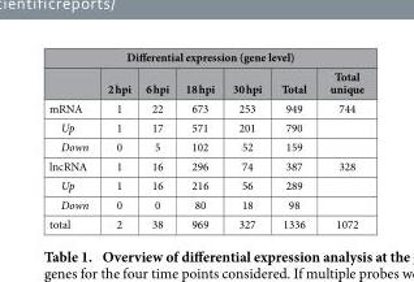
<table><thead><tr><td colspan="7">Differential expression (gene level)</td></tr><tr><td></td><td>2 hpi</td><td>6 hpi</td><td>18 hpi</td><td>30 hpi</td><td>Total</td><td>Total unique</td></tr></thead><tbody><tr><td>mRNA</td><td>1</td><td>22</td><td>673</td><td>253</td><td>949</td><td>744</td></tr><tr><td>Up</td><td>1</td><td>17</td><td>571</td><td>201</td><td>790</td><td></td></tr><tr><td>Down</td><td>0</td><td>5</td><td>102</td><td>52</td><td>159</td><td></td></tr><tr><td>lncRNA</td><td>1</td><td>16</td><td>296</td><td>74</td><td>387</td><td>328</td></tr><tr><td>Up</td><td>1</td><td>16</td><td>216</td><td>56</td><td>289</td><td></td></tr><tr><td>Down</td><td>0</td><td>0</td><td>80</td><td>18</td><td>98</td><td></td></tr><tr><td>total</td><td>2</td><td>38</td><td>969</td><td>327</td><td>1336</td><td>1072</td></tr></tbody></table>